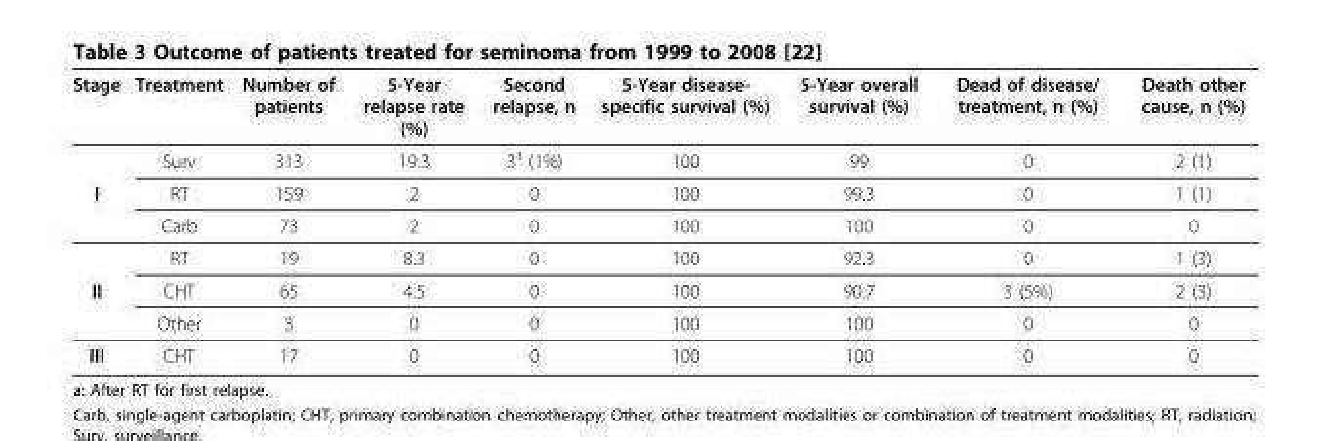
<table><thead><tr><td>Stage</td><td>Treatment</td><td>Number of patients</td><td>5-Year relapse rate (%)</td><td>Second relapse, n</td><td>5-Year disease- specific survival (%)</td><td>5-Year overall survival (%)</td><td>Dead of disease/ treatment, n (%)</td><td>Death other cause, n (%)</td></tr></thead><tbody><tr><td></td><td>Surv</td><td>313</td><td>19.3</td><td>3<sup>a</sup> (1%)</td><td>100</td><td>99</td><td>0</td><td>2 (1)</td></tr><tr><td rowspan="3">I</td><td>RT</td><td>159</td><td>2</td><td>0</td><td>100</td><td>99.3</td><td>0</td><td>1 (1)</td></tr><tr><td>Carb</td><td>73</td><td>2</td><td>0</td><td>100</td><td>100</td><td>0</td><td>0</td></tr><tr><td>RT</td><td>19</td><td>8.3</td><td>0</td><td>100</td><td>92.3</td><td>0</td><td>1 (3)</td></tr><tr><td rowspan="2">II</td><td>CHT</td><td>65</td><td>4.5</td><td>0</td><td>100</td><td>90.7</td><td>3 (5%)</td><td>2 (3)</td></tr><tr><td>Other</td><td>3</td><td>0</td><td>0</td><td>100</td><td>100</td><td>0</td><td>0</td></tr><tr><td>III</td><td>CHT</td><td>17</td><td>0</td><td>0</td><td>100</td><td>100</td><td>0</td><td>0</td></tr></tbody></table>